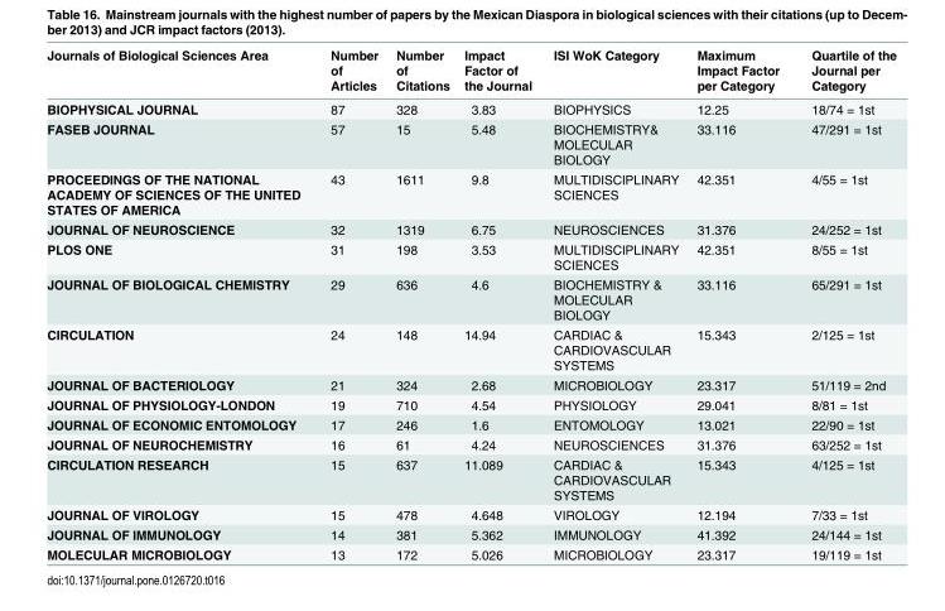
<table><thead><tr><td>Journals of Biological Sciences Area</td><td>Number of Articles</td><td>Number of Citations</td><td>Impact Factor of the Journal</td><td>ISI WoK Category</td><td>Maximum Impact Factor per Category</td><td>Quartile of the Journal per Category</td></tr></thead><tbody><tr><td>BIOPHYSICAL JOURNAL</td><td>87</td><td>328</td><td>3.83</td><td>BIOPHYSICS</td><td>12.25</td><td>18/74 = 1st</td></tr><tr><td>FASEB JOURNAL</td><td>57</td><td>15</td><td>5.48</td><td>BIOCHEMISTRY&amp; MOLECULAR BIOLOGY</td><td>33.116</td><td>47/291 = 1st</td></tr><tr><td>PROCEEDINGS OF THE NATIONAL ACADEMY OF SCIENCES OF THE UNITED STATES OF AMERICA</td><td>43</td><td>1611</td><td>9.8</td><td>MULTIDISCIPLINARY SCIENCES</td><td>42.351</td><td>4/55 = 1st</td></tr><tr><td>JOURNAL OF NEUROSCIENCE</td><td>32</td><td>1319</td><td>6.75</td><td>NEUROSCIENCES</td><td>31.376</td><td>24/252 = 1st</td></tr><tr><td>PLOS ONE</td><td>31</td><td>198</td><td>3.53</td><td>MULTIDISCIPLINARY SCIENCES</td><td>42.351</td><td>8/55 = 1st</td></tr><tr><td>JOURNAL OF BIOLOGICAL CHEMISTRY</td><td>29</td><td>636</td><td>4.6</td><td>BIOCHEMISTRY &amp; MOLECULAR BIOLOGY</td><td>33.116</td><td>65/291 = 1st</td></tr><tr><td>CIRCULATION</td><td>24</td><td>148</td><td>14.94</td><td>CARDIAC &amp; CARDIOVASCULAR SYSTEMS</td><td>15.343</td><td>2/125 = 1st</td></tr><tr><td>JOURNAL OF BACTERIOLOGY</td><td>21</td><td>324</td><td>2.68</td><td>MICROBIOLOGY</td><td>23.317</td><td>51/119 = 2nd</td></tr><tr><td>JOURNAL OF PHYSIOLOGY-LONDON</td><td>19</td><td>710</td><td>4.54</td><td>PHYSIOLOGY</td><td>29.041</td><td>8/81 = 1st</td></tr><tr><td>JOURNAL OF ECONOMIC ENTOMOLOGY</td><td>17</td><td>246</td><td>1.6</td><td>ENTOMOLOGY</td><td>13.021</td><td>22/90 = 1st</td></tr><tr><td>JOURNAL OF NEUROCHEMISTRY</td><td>16</td><td>61</td><td>4.24</td><td>NEUROSCIENCES</td><td>31.376</td><td>63/252 = 1st</td></tr><tr><td>CIRCULATION RESEARCH</td><td>15</td><td>637</td><td>11.089</td><td>CARDIAC &amp; CARDIOVASCULAR SYSTEMS</td><td>15.343</td><td>4/125 = 1st</td></tr><tr><td>JOURNAL OF VIROLOGY</td><td>15</td><td>478</td><td>4.648</td><td>VIROLOGY</td><td>12.194</td><td>7/33 = 1st</td></tr><tr><td>JOURNAL OF IMMUNOLOGY</td><td>14</td><td>381</td><td>5.362</td><td>IMMUNOLOGY</td><td>41.392</td><td>24/144 = 1st</td></tr><tr><td>MOLECULAR MICROBIOLOGY</td><td>13</td><td>172</td><td>5.026</td><td>MICROBIOLOGY</td><td>23.317</td><td>19/119 = 1st</td></tr></tbody></table>